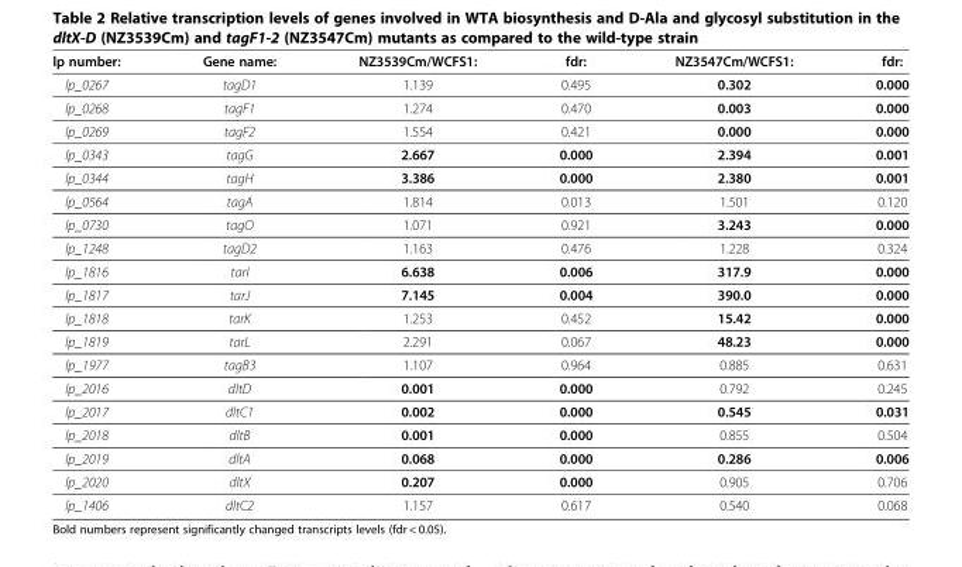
<table><thead><tr><td>lp number:</td><td>Gene name:</td><td>NZ3539Cm/WCFS1:</td><td>fdr:</td><td>NZ3547Cm/WCFS1:</td><td>fdr:</td></tr></thead><tbody><tr><td>lp_0267</td><td>tagD1</td><td>1.139</td><td>0.495</td><td>0.302</td><td>0.000</td></tr><tr><td>lp_0268</td><td>tagF1</td><td>1.274</td><td>0.470</td><td>0.003</td><td>0.000</td></tr><tr><td>lp_0269</td><td>tagF2</td><td>1.554</td><td>0.421</td><td>0.000</td><td>0.000</td></tr><tr><td>lp_0343</td><td>tagG</td><td>2.667</td><td>0.000</td><td>2.394</td><td>0.001</td></tr><tr><td>lp_0344</td><td>tagH</td><td>3.386</td><td>0.000</td><td>2.380</td><td>0.001</td></tr><tr><td>lp_0564</td><td>tagA</td><td>1.814</td><td>0.013</td><td>1.501</td><td>0.120</td></tr><tr><td>lp_0730</td><td>tagO</td><td>1.071</td><td>0.921</td><td>3.243</td><td>0.000</td></tr><tr><td>lp_1248</td><td>tagD2</td><td>1.163</td><td>0.476</td><td>1.228</td><td>0.324</td></tr><tr><td>lp_1816</td><td>tarI</td><td>6.638</td><td>0.006</td><td>317.9</td><td>0.000</td></tr><tr><td>lp_1817</td><td>tarJ</td><td>7.145</td><td>0.004</td><td>390.0</td><td>0.000</td></tr><tr><td>lp_1818</td><td>tarK</td><td>1.253</td><td>0.452</td><td>15.42</td><td>0.000</td></tr><tr><td>lp_1819</td><td>tarL</td><td>2.291</td><td>0.067</td><td>48.23</td><td>0.000</td></tr><tr><td>lp_1977</td><td>tagB3</td><td>1.107</td><td>0.964</td><td>0.885</td><td>0.631</td></tr><tr><td>lp_2016</td><td>dltD</td><td>0.001</td><td>0.000</td><td>0.792</td><td>0.245</td></tr><tr><td>lp_2017</td><td>dltC1</td><td>0.002</td><td>0.000</td><td>0.545</td><td>0.031</td></tr><tr><td>lp_2018</td><td>dltB</td><td>0.001</td><td>0.000</td><td>0.855</td><td>0.504</td></tr><tr><td>lp_2019</td><td>dltA</td><td>0.068</td><td>0.000</td><td>0.286</td><td>0.006</td></tr><tr><td>lp_2020</td><td>dltX</td><td>0.207</td><td>0.000</td><td>0.905</td><td>0.706</td></tr><tr><td>lp_1406</td><td>dltC2</td><td>1.157</td><td>0.617</td><td>0.540</td><td>0.068</td></tr></tbody></table>